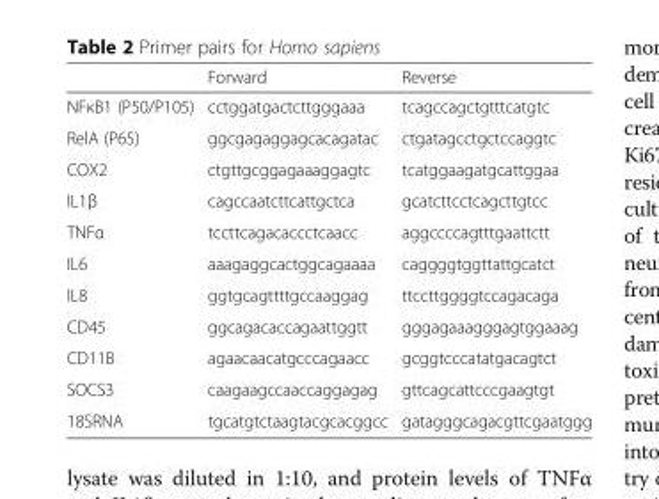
<table><thead><tr><td></td><td>Forward</td><td>Reverse</td></tr></thead><tbody><tr><td>NFκB1 (P50/P105)</td><td>cctggatgactcttgggaaa</td><td>tcagccagctgtttcatgtc</td></tr><tr><td>RelA (P65)</td><td>ggcgagaggagcacagatac</td><td>ctgatagcctgctccaggtc</td></tr><tr><td>COX2</td><td>ctgttgcggagaaaggagtc</td><td>tcatggaagatgcattggaa</td></tr><tr><td>IL1β</td><td>cagccaatcttcattgctca</td><td>gcatcttcctcagcttgtcc</td></tr><tr><td>TNFα</td><td>tccttcagacaccctcaacc</td><td>aggccccagtttgaattctt</td></tr><tr><td>IL6</td><td>aaagaggcactggcagaaaa</td><td>caggggtggttattgcatct</td></tr><tr><td>IL8</td><td>ggtgcagttttgccaaggag</td><td>ttccttggggtccagacaga</td></tr><tr><td>CD45</td><td>ggcagacaccagaattggtt</td><td>gggagaaagggagtggaaag</td></tr><tr><td>CD11B</td><td>agaacaacatgcccagaacc</td><td>gcggtcccatatgacagtct</td></tr><tr><td>SOCS3</td><td>caagaagccaaccaggagag</td><td>gttcagcattcccgaagtgt</td></tr><tr><td>18SRNA</td><td>tgcatgtctaagtacgcacggcc</td><td>gatagggcagacgttcgaatggg</td></tr></tbody></table>